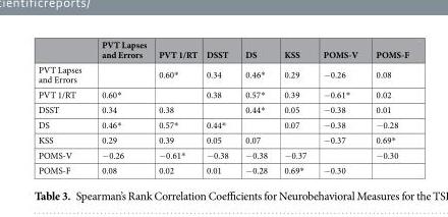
<table><thead><tr><td></td><td>PVT Lapses and Errors</td><td>PVT 1/RT</td><td>DSST</td><td>DS</td><td>KSS</td><td>POMS-V</td><td>POMS-F</td></tr></thead><tbody><tr><td>PVT Lapses and Errors</td><td></td><td>0.60*</td><td>0.34</td><td>0.46*</td><td>0.29</td><td>−0.26</td><td>0.08</td></tr><tr><td>PVT 1/RT</td><td>0.60*</td><td></td><td>0.38</td><td>0.57*</td><td>0.39</td><td>−0.61*</td><td>0.02</td></tr><tr><td>DSST</td><td>0.34</td><td>0.38</td><td></td><td>0.44*</td><td>0.05</td><td>−0.38</td><td>0.01</td></tr><tr><td>DS</td><td>0.46*</td><td>0.57*</td><td>0.44*</td><td></td><td>0.07</td><td>−0.38</td><td>−0.28</td></tr><tr><td>KSS</td><td>0.29</td><td>0.39</td><td>0.05</td><td>0.07</td><td></td><td>−0.37</td><td>0.69*</td></tr><tr><td>POMS-V</td><td>−0.26</td><td>−0.61*</td><td>−0.38</td><td>−0.38</td><td>−0.37</td><td></td><td>−0.30</td></tr><tr><td>POMS-F</td><td>0.08</td><td>0.02</td><td>0.01</td><td>−0.28</td><td>0.69*</td><td>−0.30</td><td></td></tr></tbody></table>